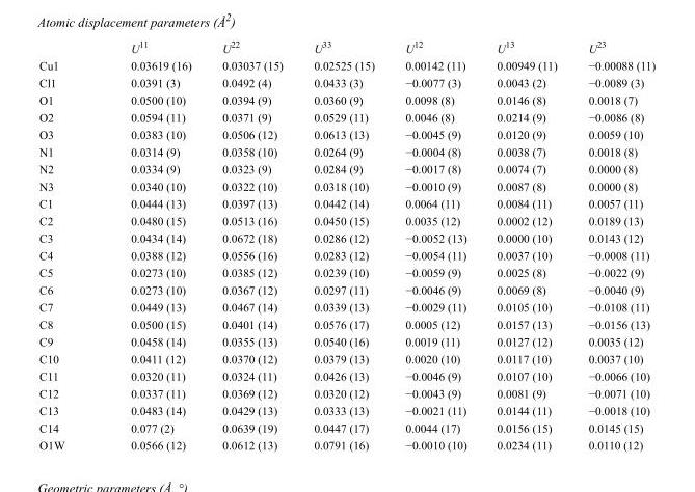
<table><thead><tr><td></td><td>U<sup>11</sup></td><td>U<sup>22</sup></td><td>U<sup>33</sup></td><td>U<sup>12</sup></td><td>U<sup>13</sup></td><td>U<sup>23</sup></td></tr></thead><tbody><tr><td>Cu1</td><td>0.03619 (16)</td><td>0.03037 (15)</td><td>0.02525 (15)</td><td>0.00142 (11)</td><td>0.00949 (11)</td><td>−0.00088 (11)</td></tr><tr><td>Cl1</td><td>0.0391 (3)</td><td>0.0492 (4)</td><td>0.0433 (3)</td><td>−0.0077 (3)</td><td>0.0043 (2)</td><td>−0.0089 (3)</td></tr><tr><td>O1</td><td>0.0500 (10)</td><td>0.0394 (9)</td><td>0.0360 (9)</td><td>0.0098 (8)</td><td>0.0146 (8)</td><td>0.0018 (7)</td></tr><tr><td>O2</td><td>0.0594 (11)</td><td>0.0371 (9)</td><td>0.0529 (11)</td><td>0.0046 (8)</td><td>0.0214 (9)</td><td>−0.0086 (8)</td></tr><tr><td>O3</td><td>0.0383 (10)</td><td>0.0506 (12)</td><td>0.0613 (13)</td><td>−0.0045 (9)</td><td>0.0120 (9)</td><td>0.0059 (10)</td></tr><tr><td>N1</td><td>0.0314 (9)</td><td>0.0358 (10)</td><td>0.0264 (9)</td><td>−0.0004 (8)</td><td>0.0038 (7)</td><td>0.0018 (8)</td></tr><tr><td>N2</td><td>0.0334 (9)</td><td>0.0323 (9)</td><td>0.0284 (9)</td><td>−0.0017 (8)</td><td>0.0074 (7)</td><td>0.0000 (8)</td></tr><tr><td>N3</td><td>0.0340 (10)</td><td>0.0322 (10)</td><td>0.0318 (10)</td><td>−0.0010 (9)</td><td>0.0087 (8)</td><td>0.0000 (8)</td></tr><tr><td>C1</td><td>0.0444 (13)</td><td>0.0397 (13)</td><td>0.0442 (14)</td><td>0.0064 (11)</td><td>0.0084 (11)</td><td>0.0057 (11)</td></tr><tr><td>C2</td><td>0.0480 (15)</td><td>0.0513 (16)</td><td>0.0450 (15)</td><td>0.0035 (12)</td><td>0.0002 (12)</td><td>0.0189 (13)</td></tr><tr><td>C3</td><td>0.0434 (14)</td><td>0.0672 (18)</td><td>0.0286 (12)</td><td>−0.0052 (13)</td><td>0.0000 (10)</td><td>0.0143 (12)</td></tr><tr><td>C4</td><td>0.0388 (12)</td><td>0.0556 (16)</td><td>0.0283 (12)</td><td>−0.0054 (11)</td><td>0.0037 (10)</td><td>−0.0008 (11)</td></tr><tr><td>C5</td><td>0.0273 (10)</td><td>0.0385 (12)</td><td>0.0239 (10)</td><td>−0.0059 (9)</td><td>0.0025 (8)</td><td>−0.0022 (9)</td></tr><tr><td>C6</td><td>0.0273 (10)</td><td>0.0367 (12)</td><td>0.0297 (11)</td><td>−0.0046 (9)</td><td>0.0069 (8)</td><td>−0.0040 (9)</td></tr><tr><td>C7</td><td>0.0449 (13)</td><td>0.0467 (14)</td><td>0.0339 (13)</td><td>−0.0029 (11)</td><td>0.0105 (10)</td><td>−0.0108 (11)</td></tr><tr><td>C8</td><td>0.0500 (15)</td><td>0.0401 (14)</td><td>0.0576 (17)</td><td>0.0005 (12)</td><td>0.0157 (13)</td><td>−0.0156 (13)</td></tr><tr><td>C9</td><td>0.0458 (14)</td><td>0.0355 (13)</td><td>0.0540 (16)</td><td>0.0019 (11)</td><td>0.0127 (12)</td><td>0.0035 (12)</td></tr><tr><td>C10</td><td>0.0411 (12)</td><td>0.0370 (12)</td><td>0.0379 (13)</td><td>0.0020 (10)</td><td>0.0117 (10)</td><td>0.0037 (10)</td></tr><tr><td>C11</td><td>0.0320 (11)</td><td>0.0324 (11)</td><td>0.0426 (13)</td><td>−0.0046 (9)</td><td>0.0107 (10)</td><td>−0.0066 (10)</td></tr><tr><td>C12</td><td>0.0337 (11)</td><td>0.0369 (12)</td><td>0.0320 (12)</td><td>−0.0043 (9)</td><td>0.0081 (9)</td><td>−0.0071 (10)</td></tr><tr><td>C13</td><td>0.0483 (14)</td><td>0.0429 (13)</td><td>0.0333 (13)</td><td>−0.0021 (11)</td><td>0.0144 (11)</td><td>−0.0018 (10)</td></tr><tr><td>C14</td><td>0.077 (2)</td><td>0.0639 (19)</td><td>0.0447 (17)</td><td>0.0044 (17)</td><td>0.0156 (15)</td><td>0.0145 (15)</td></tr><tr><td>O1W</td><td>0.0566 (12)</td><td>0.0612 (13)</td><td>0.0791 (16)</td><td>−0.0010 (10)</td><td>0.0234 (11)</td><td>0.0110 (12)</td></tr></tbody></table>